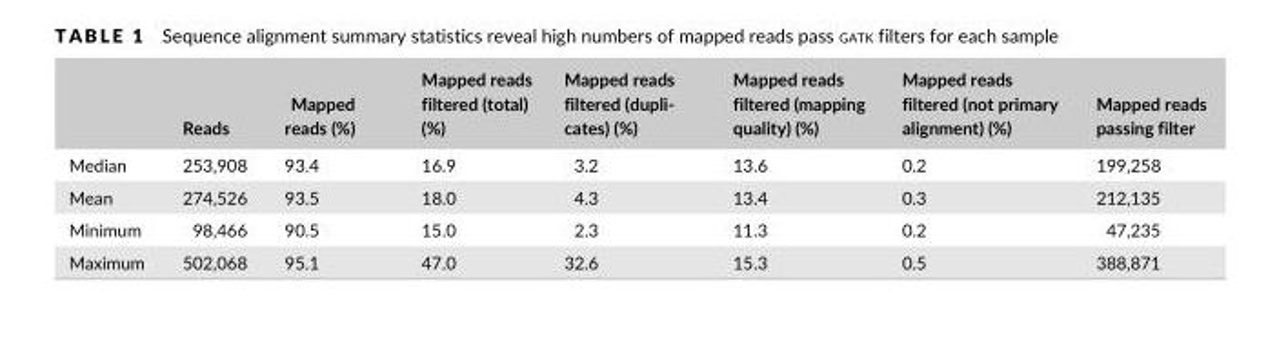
<table><thead><tr><td></td><td>Reads</td><td>Mapped reads (%)</td><td>Mapped reads filtered (total) (%)</td><td>Mapped reads filtered (dupli- cates) (%)</td><td>Mapped reads filtered (mapping quality) (%)</td><td>Mapped reads filtered (not primary alignment) (%)</td><td>Mapped reads passing filter</td></tr></thead><tbody><tr><td>Median</td><td>253,908</td><td>93.4</td><td>16.9</td><td>3.2</td><td>13.6</td><td>0.2</td><td>199,258</td></tr><tr><td>Mean</td><td>274,526</td><td>93.5</td><td>18.0</td><td>4.3</td><td>13.4</td><td>0.3</td><td>212,135</td></tr><tr><td>Minimum</td><td>98,466</td><td>90.5</td><td>15.0</td><td>2.3</td><td>11.3</td><td>0.2</td><td>47,235</td></tr><tr><td>Maximum</td><td>502,068</td><td>95.1</td><td>47.0</td><td>32.6</td><td>15.3</td><td>0.5</td><td>388,871</td></tr></tbody></table>